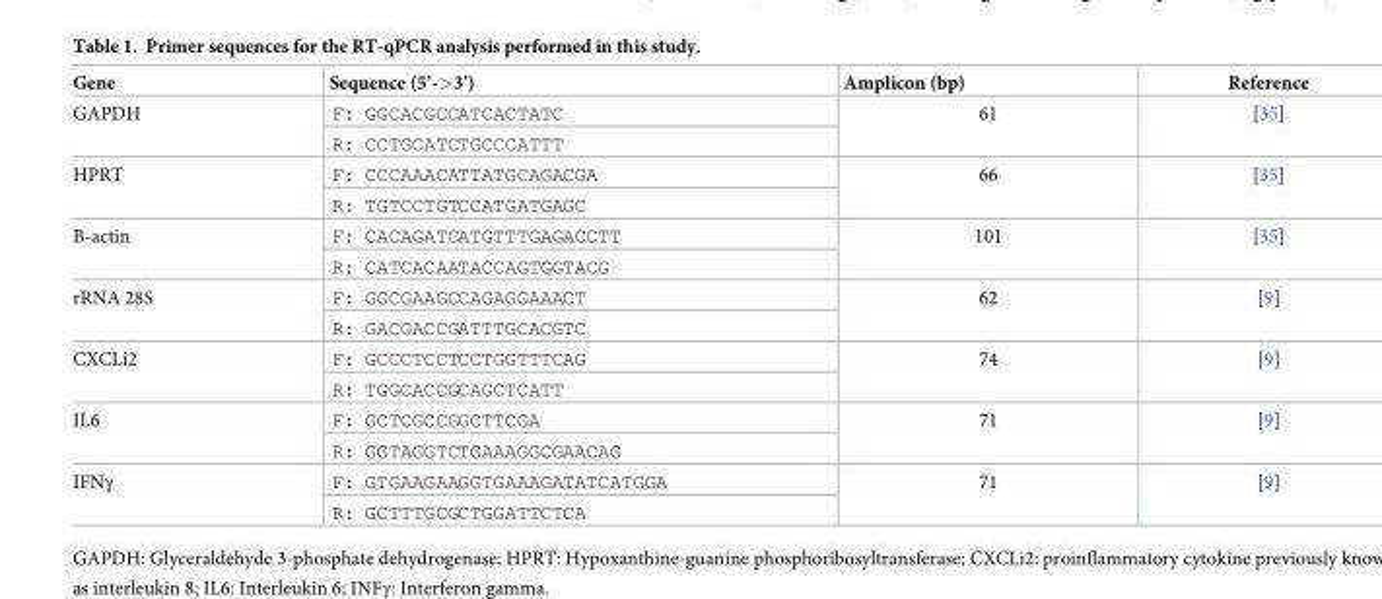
<table><thead><tr><td>Gene</td><td>Sequence (5’-&gt;3’)</td><td>Amplicon (bp)</td><td>Reference</td></tr></thead><tbody><tr><td rowspan="2">GAPDH</td><td>F: GGCACGCCATCACTATC</td><td rowspan="2">61</td><td rowspan="2">[35]</td></tr><tr><td>R: CCTGCATCTGCCCATTT</td></tr><tr><td rowspan="2">HPRT</td><td>F: CCCAAACATTATGCAGACGA</td><td rowspan="2">66</td><td rowspan="2">[35]</td></tr><tr><td>R: TGTCCTGTCCATGATGAGC</td></tr><tr><td rowspan="2">Β-actin</td><td>F: CACAGATCATGTTTGAGACCTT</td><td rowspan="2">101</td><td rowspan="2">[35]</td></tr><tr><td>R: CATCACAATACCAGTGGTACG</td></tr><tr><td rowspan="2">rRNA 28S</td><td>F: GGCGAAGCCAGAGGAAACT</td><td rowspan="2">62</td><td rowspan="2">[9]</td></tr><tr><td>R: GACGACCGATTTGCACGTC</td></tr><tr><td rowspan="2">CXCLi2</td><td>F: GCCCTCCTCCTGGTTTCAG</td><td rowspan="2">74</td><td rowspan="2">[9]</td></tr><tr><td>R: TGGCACCGCAGCTCATT</td></tr><tr><td rowspan="2">IL6</td><td>F: GCTCGCCGGCTTCGA</td><td rowspan="2">71</td><td rowspan="2">[9]</td></tr><tr><td>R: GGTAGGTCTGAAAGGCGAACAG</td></tr><tr><td rowspan="2">IFNγ</td><td>F: GTGAAGAAGGTGAAAGATATCATGGA</td><td rowspan="2">71</td><td rowspan="2">[9]</td></tr><tr><td>R: GCTTTGCGCTGGATTCTCA</td></tr></tbody></table>